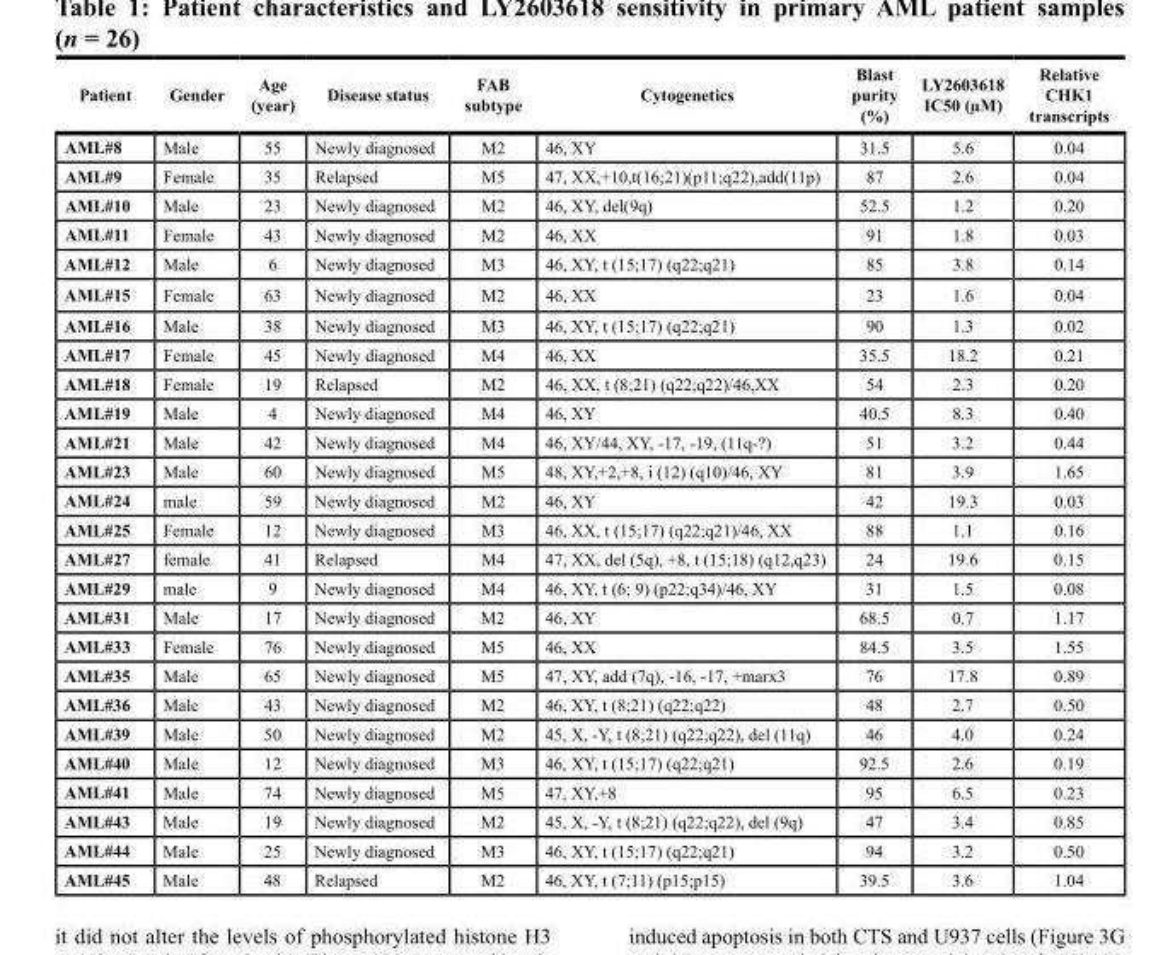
<table><thead><tr><td>Patient</td><td>Gender</td><td>Age (year)</td><td>disease status</td><td>FAb subtype</td><td>cytogenetics</td><td>blast purity (%)</td><td>LY2603618 Ic50 (µM)</td><td>relative cHK1 transcripts</td></tr></thead><tbody><tr><td>AML#8</td><td>Male</td><td>55</td><td>Newly diagnosed</td><td>M2</td><td>46, XY</td><td>31.5</td><td>5.6</td><td>0.04</td></tr><tr><td>AML#9</td><td>Female</td><td>35</td><td>Relapsed</td><td>M5</td><td>47, XX,+10,t(16;21)(p11;q22),add(11p)</td><td>87</td><td>2.6</td><td>0.04</td></tr><tr><td>AML#10</td><td>Male</td><td>23</td><td>Newly diagnosed</td><td>M2</td><td>46, XY, del(9q)</td><td>52.5</td><td>1.2</td><td>0.20</td></tr><tr><td>AML#11</td><td>Female</td><td>43</td><td>Newly diagnosed</td><td>M2</td><td>46, XX</td><td>91</td><td>1.8</td><td>0.03</td></tr><tr><td>AML#12</td><td>Male</td><td>6</td><td>Newly diagnosed</td><td>M3</td><td>46, XY, t (15;17) (q22;q21)</td><td>85</td><td>3.8</td><td>0.14</td></tr><tr><td>AML#15</td><td>Female</td><td>63</td><td>Newly diagnosed</td><td>M2</td><td>46, XX</td><td>23</td><td>1.6</td><td>0.04</td></tr><tr><td>AML#16</td><td>Male</td><td>38</td><td>Newly diagnosed</td><td>M3</td><td>46, XY, t (15;17) (q22;q21)</td><td>90</td><td>1.3</td><td>0.02</td></tr><tr><td>AML#17</td><td>Female</td><td>45</td><td>Newly diagnosed</td><td>M4</td><td>46, XX</td><td>35.5</td><td>18.2</td><td>0.21</td></tr><tr><td>AML#18</td><td>Female</td><td>19</td><td>Relapsed</td><td>M2</td><td>46, XX, t (8;21) (q22;q22)/46,XX</td><td>54</td><td>2.3</td><td>0.20</td></tr><tr><td>AML#19</td><td>Male</td><td>4</td><td>Newly diagnosed</td><td>M4</td><td>46, XY</td><td>40.5</td><td>8.3</td><td>0.40</td></tr><tr><td>AML#21</td><td>Male</td><td>42</td><td>Newly diagnosed</td><td>M4</td><td>46, XY/44, XY, -17, -19, (11q-?)</td><td>51</td><td>3.2</td><td>0.44</td></tr><tr><td>AML#23</td><td>Male</td><td>60</td><td>Newly diagnosed</td><td>M5</td><td>48, XY,+2,+8, i (12) (q10)/46, XY</td><td>81</td><td>3.9</td><td>1.65</td></tr><tr><td>AML#24</td><td>male</td><td>59</td><td>Newly diagnosed</td><td>M2</td><td>46, XY</td><td>42</td><td>19.3</td><td>0.03</td></tr><tr><td>AML#25</td><td>Female</td><td>12</td><td>Newly diagnosed</td><td>M3</td><td>46, XX, t (15;17) (q22;q21)/46, XX</td><td>88</td><td>1.1</td><td>0.16</td></tr><tr><td>AML#27</td><td>female</td><td>41</td><td>Relapsed</td><td>M4</td><td>47, XX, del (5q), +8, t (15;18) (q12,q23)</td><td>24</td><td>19.6</td><td>0.15</td></tr><tr><td>AML#29</td><td>male</td><td>9</td><td>Newly diagnosed</td><td>M4</td><td>46, XY, t (6; 9) (p22;q34)/46, XY</td><td>31</td><td>1.5</td><td>0.08</td></tr><tr><td>AML#31</td><td>Male</td><td>17</td><td>Newly diagnosed</td><td>M2</td><td>46, XY</td><td>68.5</td><td>0.7</td><td>1.17</td></tr><tr><td>AML#33</td><td>Female</td><td>76</td><td>Newly diagnosed</td><td>M5</td><td>46, XX</td><td>84.5</td><td>3.5</td><td>1.55</td></tr><tr><td>AML#35</td><td>Male</td><td>65</td><td>Newly diagnosed</td><td>M5</td><td>47, XY, add (7q), -16, -17, +marx3</td><td>76</td><td>17.8</td><td>0.89</td></tr><tr><td>AML#36</td><td>Male</td><td>43</td><td>Newly diagnosed</td><td>M2</td><td>46, XY, t (8;21) (q22;q22)</td><td>48</td><td>2.7</td><td>0.50</td></tr><tr><td>AML#39</td><td>Male</td><td>50</td><td>Newly diagnosed</td><td>M2</td><td>45, X, -Y, t (8;21) (q22;q22), del (11q)</td><td>46</td><td>4.0</td><td>0.24</td></tr><tr><td>AML#40</td><td>Male</td><td>12</td><td>Newly diagnosed</td><td>M3</td><td>46, XY, t (15;17) (q22;q21)</td><td>92.5</td><td>2.6</td><td>0.19</td></tr><tr><td>AML#41</td><td>Male</td><td>74</td><td>Newly diagnosed</td><td>M5</td><td>47, XY,+8</td><td>95</td><td>6.5</td><td>0.23</td></tr><tr><td>AML#43</td><td>Male</td><td>19</td><td>Newly diagnosed</td><td>M2</td><td>45, X, -Y, t (8;21) (q22;q22), del (9q)</td><td>47</td><td>3.4</td><td>0.85</td></tr><tr><td>AML#44</td><td>Male</td><td>25</td><td>Newly diagnosed</td><td>M3</td><td>46, XY, t (15;17) (q22;q21)</td><td>94</td><td>3.2</td><td>0.50</td></tr><tr><td>AML#45</td><td>Male</td><td>48</td><td>Relapsed</td><td>M2</td><td>46, XY, t (7;11) (p15;p15)</td><td>39.5</td><td>3.6</td><td>1.04</td></tr></tbody></table>